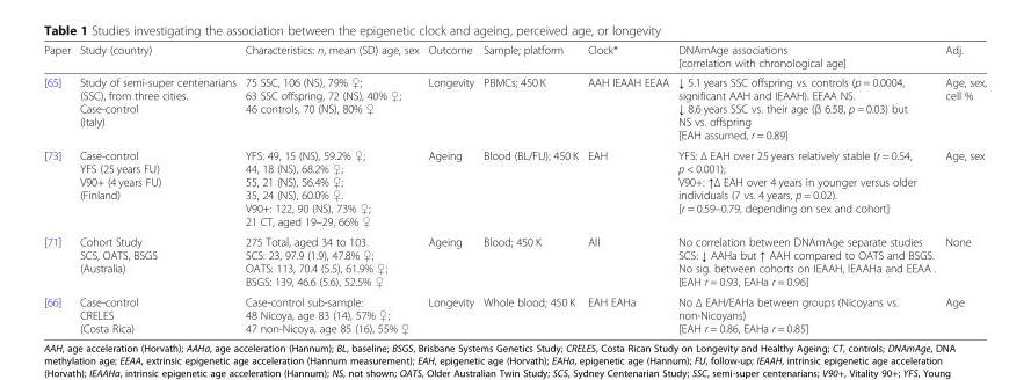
<table><thead><tr><td>Paper</td><td>Study (country)</td><td>Characteristics: n, mean (SD) age, sex</td><td>Outcome</td><td>Sample; platform</td><td>Clock*</td><td>DNAmAge associations [correlation with chronological age]</td><td>Adj.</td></tr></thead><tbody><tr><td>[65]</td><td>Study of semi-super centenarians (SSC), from three cities. Case-control (Italy)</td><td>75 SSC, 106 (NS), 79% ♀; 63 SSC offspring, 72 (NS), 40% ♀; 46 controls, 70 (NS), 80% ♀</td><td>Longevity</td><td>PBMCs; 450 K</td><td>AAH IEAAH EEAA</td><td>↓ 5.1 years SSC offspring vs. controls (p = 0.0004, significant AAH and IEAAH). EEAA NS. ↓ 8.6 years SSC vs. their age (β 6.58, p = 0.03) but NS vs. offspring [EAH assumed, r = 0.89]</td><td>Age, sex, cell %</td></tr><tr><td>[73]</td><td>Case-control YFS (25 years FU) V90+ (4 years FU) (Finland)</td><td>YFS: 49, 15 (NS), 59.2% ♀; 44, 18 (NS), 68.2% ♀; 55, 21 (NS), 56.4% ♀; 35, 24 (NS), 60.0% ♀. V90+: 122, 90 (NS), 73% ♀; 21 CT, aged 19–29, 66% ♀</td><td>Ageing</td><td>Blood (BL/FU); 450 K</td><td>EAH</td><td>YFS: Δ EAH over 25 years relatively stable (r = 0.54, p &lt; 0.001); V90+: ↑Δ EAH over 4 years in younger versus older individuals (7 vs. 4 years, p = 0.02). [r = 0.59–0.79, depending on sex and cohort]</td><td>Age, sex</td></tr><tr><td>[71]</td><td>Cohort Study SCS, OATS, BSGS (Australia)</td><td>275 Total, aged 34 to 103. SCS: 23, 97.9 (1.9), 47.8% ♀; OATS: 113, 70.4 (5.5), 61.9% ♀; BSGS: 139, 46.6 (5.6), 52.5% ♀</td><td>Ageing</td><td>Blood; 450 K</td><td>All</td><td>No correlation between DNAmAge separate studies SCS: ↓ AAHa but ↑ AAH compared to OATS and BSGS. No sig. between cohorts on IEAAH, IEAAHa and EEAA . [EAH r = 0.93, EAHa r = 0.96]</td><td>None</td></tr><tr><td>[66]</td><td>Case-control CRELES (Costa Rica)</td><td>Case-control sub-sample: 48 Nicoya, age 83 (14), 57% ♀; 47 non-Nicoya, age 85 (16), 55% ♀</td><td>Longevity</td><td>Whole blood; 450 K</td><td>EAH EAHa</td><td>No Δ EAH/EAHa between groups (Nicoyans vs. non-Nicoyans) [EAH r = 0.86, EAHa r = 0.85]</td><td>Age</td></tr></tbody></table>